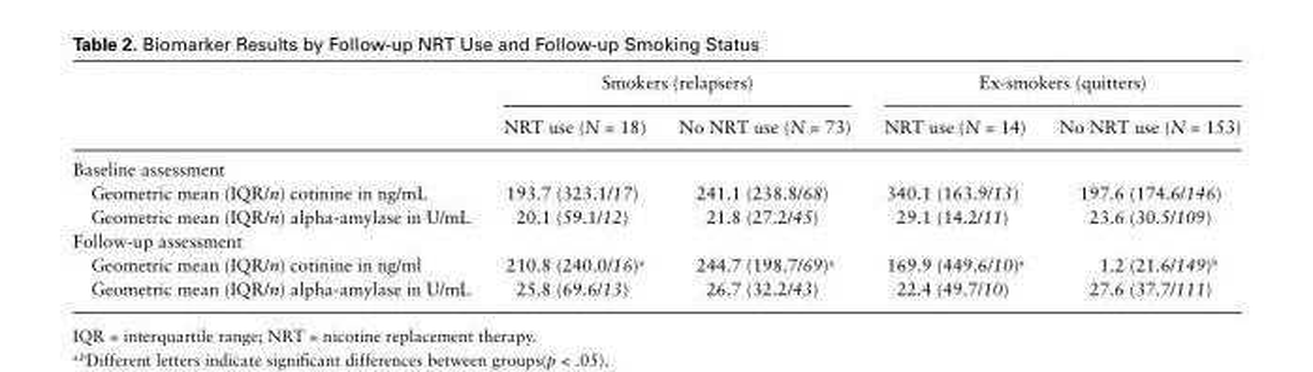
<table><thead><tr><td rowspan="2"></td><td colspan="2">Smokers (relapsers)</td><td colspan="2">Ex-smokers (quitters)</td></tr><tr><td>NRT use (N = 18)</td><td>No NRT use (N = 73)</td><td>NRT use (N = 14)</td><td>No NRT use (N = 153)</td></tr></thead><tbody><tr><td colspan="5">Baseline assessment</td></tr><tr><td>Geometric mean (IQR/n) cotinine in ng/mL</td><td>193.7 (323.1/17)</td><td>241.1 (238.8/68)</td><td>340.1 (163.9/13)</td><td>197.6 (174.6/146)</td></tr><tr><td>Geometric mean (IQR/n) alpha-amylase in U/mL</td><td>20.1 (59.1/12)</td><td>21.8 (27.2/45)</td><td>29.1 (14.2/11)</td><td>23.6 (30.5/109)</td></tr><tr><td colspan="5">Follow-up assessment</td></tr><tr><td>Geometric mean (IQR/n) cotinine in ng/ml</td><td>210.8 (240.0/16)<sup>a</sup></td><td>244.7 (198.7/69)<sup>a</sup></td><td>169.9 (449.6/10)<sup>a</sup></td><td>1.2 (21.6/149)<sup>b</sup></td></tr><tr><td>Geometric mean (IQR/n) alpha-amylase in U/mL</td><td>25.8 (69.6/13)</td><td>26.7 (32.2/43)</td><td>22.4 (49.7/10)</td><td>27.6 (37.7/111)</td></tr></tbody></table>